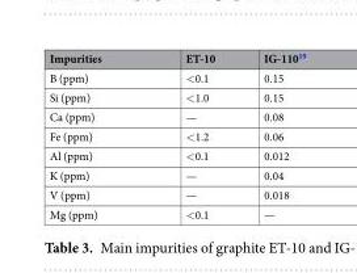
<table><thead><tr><td>Impurities</td><td>ET-10</td><td>IG-110<sup>19</sup></td></tr></thead><tbody><tr><td>B (ppm)</td><td>&lt;0.1</td><td>0.15</td></tr><tr><td>Si (ppm)</td><td>&lt;1.0</td><td>0.15</td></tr><tr><td>Ca (ppm)</td><td>—</td><td>0.08</td></tr><tr><td>Fe (ppm)</td><td>&lt;1.2</td><td>0.06</td></tr><tr><td>Al (ppm)</td><td>&lt;0.1</td><td>0.012</td></tr><tr><td>K (ppm)</td><td>—</td><td>0.04</td></tr><tr><td>V (ppm)</td><td>—</td><td>0.018</td></tr><tr><td>Mg (ppm)</td><td>&lt;0.1</td><td>—</td></tr></tbody></table>